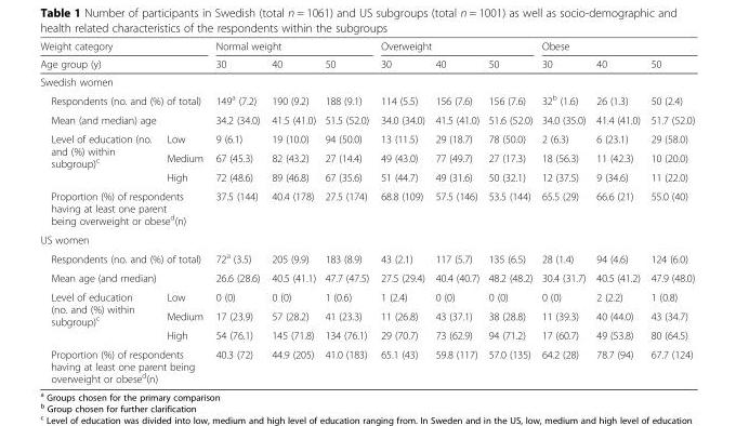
<table><thead><tr><td rowspan="2" colspan="2">Weight category Age group (y)</td><td colspan="3">Normal weight</td><td colspan="3">Overweight</td><td colspan="3">Obese</td></tr><tr><td>30</td><td>40</td><td>50</td><td>30</td><td>40</td><td>50</td><td>30</td><td>40</td><td>50</td></tr></thead><tbody><tr><td colspan="11">Swedish women</td></tr><tr><td colspan="2">Respondents (no. and (%) of total)</td><td>149<sup>a</sup> (7.2)</td><td>190 (9.2)</td><td>188 (9.1)</td><td>114 (5.5)</td><td>156 (7.6)</td><td>156 (7.6)</td><td>32<sup>b</sup> (1.6)</td><td>26 (1.3)</td><td>50 (2.4)</td></tr><tr><td colspan="2">Mean (and median) age</td><td>34.2 (34.0)</td><td>41.5 (41.0)</td><td>51.5 (52.0)</td><td>34.0 (34.0)</td><td>41.5 (41.0)</td><td>51.6 (52.0)</td><td>34.0 (35.0)</td><td>41.4 (41.0)</td><td>51.7 (52.0)</td></tr><tr><td rowspan="3">Level of education (no. and (%) within subgroup)<sup>c</sup></td><td>Low</td><td>9 (6.1)</td><td>19 (10.0)</td><td>94 (50.0)</td><td>13 (11.5)</td><td>29 (18.7)</td><td>78 (50.0)</td><td>2 (6.3)</td><td>6 (23.1)</td><td>29 (58.0)</td></tr><tr><td>Medium</td><td>67 (45.3)</td><td>82 (43.2)</td><td>27 (14.4)</td><td>49 (43.0)</td><td>77 (49.7)</td><td>27 (17.3)</td><td>18 (56.3)</td><td>11 (42.3)</td><td>10 (20.0)</td></tr><tr><td>High</td><td>72 (48.6)</td><td>89 (46.8)</td><td>67 (35.6)</td><td>51 (44.7)</td><td>49 (31.6)</td><td>50 (32.1)</td><td>12 (37.5)</td><td>9 (34.6)</td><td>11 (22.0)</td></tr><tr><td colspan="2">Proportion (%) of respondents having at least one parent being overweight or obese<sup>d</sup>(n)</td><td>37.5 (144)</td><td>40.4 (178)</td><td>27.5 (174)</td><td>68.8 (109)</td><td>57.5 (146)</td><td>53.5 (144)</td><td>65.5 (29)</td><td>66.6 (21)</td><td>55.0 (40)</td></tr><tr><td colspan="11">US women</td></tr><tr><td colspan="2">Respondents (no. and (%) of total)</td><td>72<sup>a</sup> (3.5)</td><td>205 (9.9)</td><td>183 (8.9)</td><td>43 (2.1)</td><td>117 (5.7)</td><td>135 (6.5)</td><td>28 (1.4)</td><td>94 (4.6)</td><td>124 (6.0)</td></tr><tr><td colspan="2">Mean age (and median)</td><td>26.6 (28.6)</td><td>40.5 (41.1)</td><td>47.7 (47.5)</td><td>27.5 (29.4)</td><td>40.4 (40.7)</td><td>48.2 (48.2)</td><td>30.4 (31.7)</td><td>40.5 (41.2)</td><td>47.9 (48.0)</td></tr><tr><td rowspan="3">Level of education (no. and (%) within subgroup)<sup>c</sup></td><td>Low</td><td>0 (0)</td><td>0 (0)</td><td>1 (0.6)</td><td>1 (2.4)</td><td>0 (0)</td><td>0 (0)</td><td>0 (0)</td><td>2 (2.2)</td><td>1 (0.8)</td></tr><tr><td>Medium</td><td>17 (23.9)</td><td>57 (28.2)</td><td>41 (23.3)</td><td>11 (26.8)</td><td>43 (37.1)</td><td>38 (28.8)</td><td>11 (39.3)</td><td>40 (44.0)</td><td>43 (34.7)</td></tr><tr><td>High</td><td>54 (76.1)</td><td>145 (71.8)</td><td>134 (76.1)</td><td>29 (70.7)</td><td>73 (62.9)</td><td>94 (71.2)</td><td>17 (60.7)</td><td>49 (53.8)</td><td>80 (64.5)</td></tr><tr><td colspan="2">Proportion (%) of respondents having at least one parent being overweight or obese<sup>d</sup>(n)</td><td>40.3 (72)</td><td>44.9 (205)</td><td>41.0 (183)</td><td>65.1 (43)</td><td>59.8 (117)</td><td>57.0 (135)</td><td>64.2 (28)</td><td>78.7 (94)</td><td>67.7 (124)</td></tr></tbody></table>